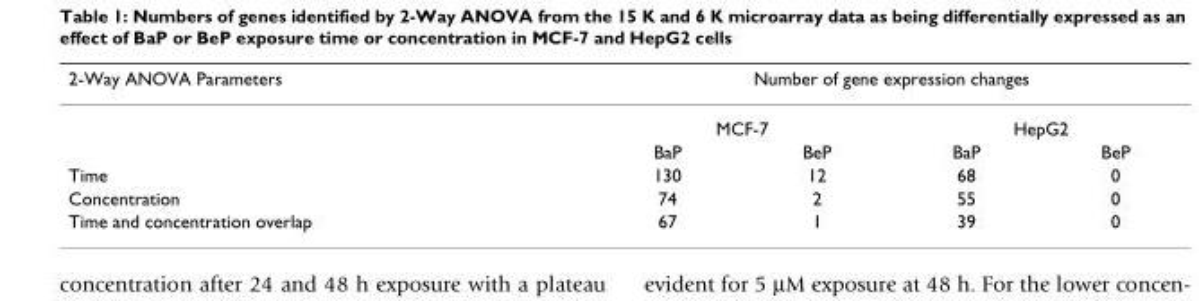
<table><thead><tr><td rowspan="3">2-Way ANOVA Parameters</td><td colspan="4">Number of gene expression changes</td></tr><tr><td colspan="2">MCF-7</td><td colspan="2">HepG2</td></tr><tr><td>BaP</td><td>BeP</td><td>BaP</td><td>BeP</td></tr></thead><tbody><tr><td>Time</td><td>130</td><td>12</td><td>68</td><td>0</td></tr><tr><td>Concentration</td><td>74</td><td>2</td><td>55</td><td>0</td></tr><tr><td>Time and concentration overlap</td><td>67</td><td>1</td><td>39</td><td>0</td></tr></tbody></table>